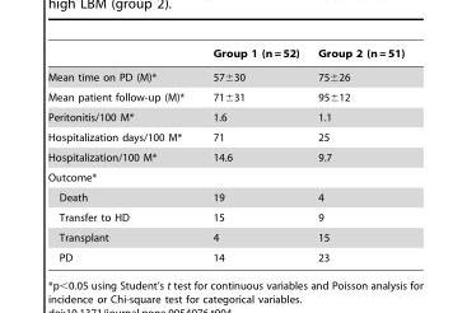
<table><thead><tr><td></td><td>Group 1 (n = 52)</td><td>Group 2 (n = 51)</td></tr></thead><tbody><tr><td>Mean time on PD (M)*</td><td>57±30</td><td>75±26</td></tr><tr><td>Mean patient follow-up (M)*</td><td>71±31</td><td>95±12</td></tr><tr><td>Peritonitis/100 M*</td><td>1.6</td><td>1.1</td></tr><tr><td>Hospitalization days/100 M*</td><td>71</td><td>25</td></tr><tr><td>Hospitalization/100 M*</td><td>14.6</td><td>9.7</td></tr><tr><td colspan="3">Outcome*</td></tr><tr><td>Death</td><td>19</td><td>4</td></tr><tr><td>Transfer to HD</td><td>15</td><td>9</td></tr><tr><td>Transplant</td><td>4</td><td>15</td></tr><tr><td>PD</td><td>14</td><td>23</td></tr></tbody></table>